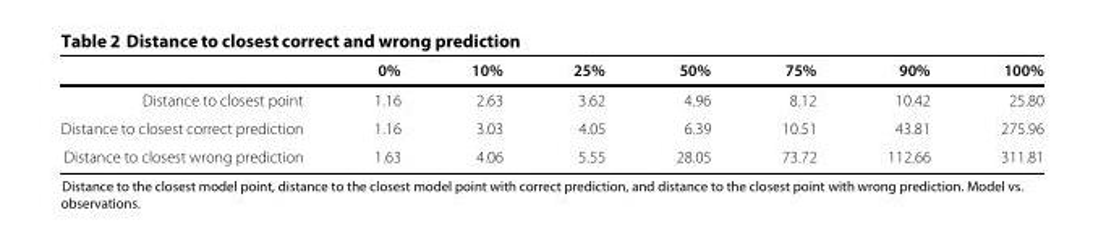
<table><thead><tr><td></td><td>0%</td><td>10%</td><td>25%</td><td>50%</td><td>75%</td><td>90%</td><td>100%</td></tr></thead><tbody><tr><td>Distance to closest point</td><td>1.16</td><td>2.63</td><td>3.62</td><td>4.96</td><td>8.12</td><td>10.42</td><td>25.80</td></tr><tr><td>Distance to closest correct prediction</td><td>1.16</td><td>3.03</td><td>4.05</td><td>6.39</td><td>10.51</td><td>43.81</td><td>275.96</td></tr><tr><td>Distance to closest wrong prediction</td><td>1.63</td><td>4.06</td><td>5.55</td><td>28.05</td><td>73.72</td><td>112.66</td><td>311.81</td></tr></tbody></table>